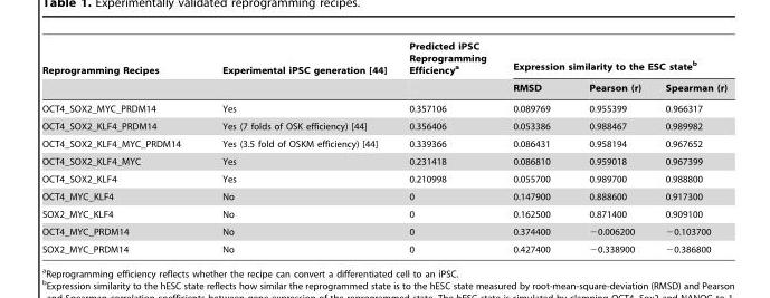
<table><thead><tr><td rowspan="2">Reprogramming Recipes</td><td rowspan="2">Experimental iPSC generation [44]</td><td rowspan="2">Predicted iPSC Reprogramming Efficiency<sup>a</sup></td><td colspan="3">Expression similarity to the ESC state<sup>b</sup></td></tr><tr><td>RMSD</td><td>Pearson (r)</td><td>Spearman (r)</td></tr></thead><tbody><tr><td>OCT4_SOX2_MYC_PRDM14</td><td>Yes</td><td>0.357106</td><td>0.089769</td><td>0.955399</td><td>0.966317</td></tr><tr><td>OCT4_SOX2_KLF4_PRDM14</td><td>Yes (7 folds of OSK efficiency) [44]</td><td>0.356406</td><td>0.053386</td><td>0.988467</td><td>0.989982</td></tr><tr><td>OCT4_SOX2_KLF4_MYC_PRDM14</td><td>Yes (3.5 fold of OSKM efficiency) [44]</td><td>0.339366</td><td>0.086431</td><td>0.958194</td><td>0.967652</td></tr><tr><td>OCT4_SOX2_KLF4_MYC</td><td>Yes</td><td>0.231418</td><td>0.086810</td><td>0.959018</td><td>0.967399</td></tr><tr><td>OCT4_SOX2_KLF4</td><td>Yes</td><td>0.210998</td><td>0.055700</td><td>0.989700</td><td>0.988800</td></tr><tr><td>OCT4_MYC_KLF4</td><td>No</td><td>0</td><td>0.147900</td><td>0.888600</td><td>0.917300</td></tr><tr><td>SOX2_MYC_KLF4</td><td>No</td><td>0</td><td>0.162500</td><td>0.871400</td><td>0.909100</td></tr><tr><td>OCT4_MYC_PRDM14</td><td>No</td><td>0</td><td>0.374400</td><td>−0.006200</td><td>−0.103700</td></tr><tr><td>SOX2_MYC_PRDM14</td><td>No</td><td>0</td><td>0.427400</td><td>−0.338900</td><td>−0.386800</td></tr></tbody></table>